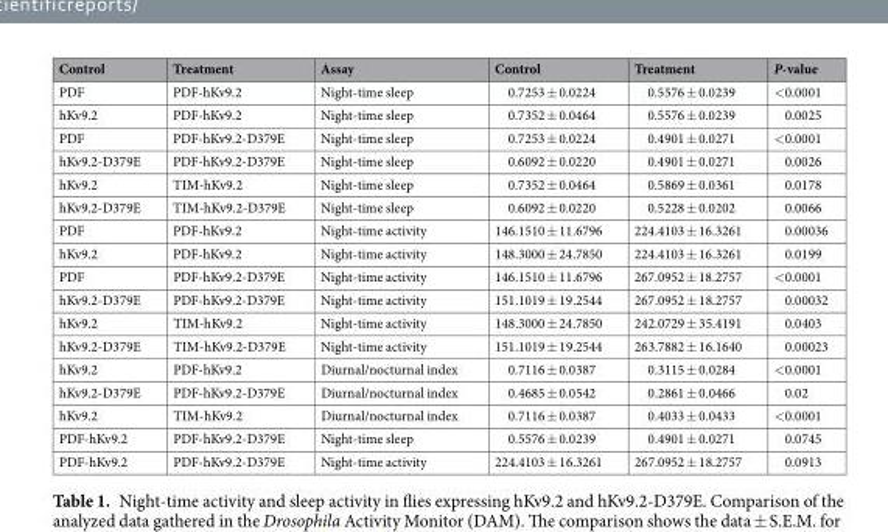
<table><thead><tr><td>Control</td><td>Treatment</td><td>Assay</td><td>Control</td><td>Treatment</td><td>P-value</td></tr></thead><tbody><tr><td>PDF</td><td>PDF-hKv9.2</td><td>Night-time sleep</td><td>0.7253 ± 0.0224</td><td>0.5576 ± 0.0239</td><td>&lt;0.0001</td></tr><tr><td>hKv9.2</td><td>PDF-hKv9.2</td><td>Night-time sleep</td><td>0.7352 ± 0.0464</td><td>0.5576 ± 0.0239</td><td>0.0025</td></tr><tr><td>PDF</td><td>PDF-hKv9.2-D379E</td><td>Night-time sleep</td><td>0.7253 ± 0.0224</td><td>0.4901 ± 0.0271</td><td>&lt;0.0001</td></tr><tr><td>hKv9.2-D379E</td><td>PDF-hKv9.2-D379E</td><td>Night-time sleep</td><td>0.6092 ± 0.0220</td><td>0.4901 ± 0.0271</td><td>0.0026</td></tr><tr><td>hKv9.2</td><td>TIM-hKv9.2</td><td>Night-time sleep</td><td>0.7352 ± 0.0464</td><td>0.5869 ± 0.0361</td><td>0.0178</td></tr><tr><td>hKv9.2-D379E</td><td>TIM-hKv9.2-D379E</td><td>Night-time sleep</td><td>0.6092 ± 0.0220</td><td>0.5228 ± 0.0202</td><td>0.0066</td></tr><tr><td>PDF</td><td>PDF-hKv9.2</td><td>Night-time activity</td><td>146.1510 ± 11.6796</td><td>224.4103 ± 16.3261</td><td>0.00036</td></tr><tr><td>hKv9.2</td><td>PDF-hKv9.2</td><td>Night-time activity</td><td>148.3000 ± 24.7850</td><td>224.4103 ± 16.3261</td><td>0.0199</td></tr><tr><td>PDF</td><td>PDF-hKv9.2-D379E</td><td>Night-time activity</td><td>146.1510 ± 11.6796</td><td>267.0952 ± 18.2757</td><td>&lt;0.0001</td></tr><tr><td>hKv9.2-D379E</td><td>PDF-hKv9.2-D379E</td><td>Night-time activity</td><td>151.1019 ± 19.2544</td><td>267.0952 ± 18.2757</td><td>0.00032</td></tr><tr><td>hKv9.2</td><td>TIM-hKv9.2</td><td>Night-time activity</td><td>148.3000 ± 24.7850</td><td>242.0729 ± 35.4191</td><td>0.0403</td></tr><tr><td>hKv9.2-D379E</td><td>TIM-hKv9.2-D379E</td><td>Night-time activity</td><td>151.1019 ± 19.2544</td><td>263.7882 ± 16.1640</td><td>0.00023</td></tr><tr><td>hKv9.2</td><td>PDF-hKv9.2</td><td>Diurnal/nocturnal index</td><td>0.7116 ± 0.0387</td><td>0.3115 ± 0.0284</td><td>&lt;0.0001</td></tr><tr><td>hKv9.2-D379E</td><td>PDF-hKv9.2-D379E</td><td>Diurnal/nocturnal index</td><td>0.4685 ± 0.0542</td><td>0.2861 ± 0.0466</td><td>0.02</td></tr><tr><td>hKv9.2</td><td>TIM-hKv9.2</td><td>Diurnal/nocturnal index</td><td>0.7116 ± 0.0387</td><td>0.4033 ± 0.0433</td><td>&lt;0.0001</td></tr><tr><td>PDF-hKv9.2</td><td>PDF-hKv9.2-D379E</td><td>Night-time sleep</td><td>0.5576 ± 0.0239</td><td>0.4901 ± 0.0271</td><td>0.0745</td></tr><tr><td>PDF-hKv9.2</td><td>PDF-hKv9.2-D379E</td><td>Night-time activity</td><td>224.4103 ± 16.3261</td><td>267.0952 ± 18.2757</td><td>0.0913</td></tr></tbody></table>